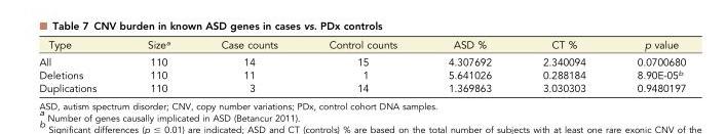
<table><thead><tr><td>Type</td><td>Size<sup>a</sup></td><td>Case counts</td><td>Control counts</td><td>ASD %</td><td>CT %</td><td>p value</td></tr></thead><tbody><tr><td>All</td><td>110</td><td>14</td><td>15</td><td>4.307692</td><td>2.340094</td><td>0.0700680</td></tr><tr><td>Deletions</td><td>110</td><td>11</td><td>1</td><td>5.641026</td><td>0.288184</td><td>8.90E-05<sup>b</sup></td></tr><tr><td>Duplications</td><td>110</td><td>3</td><td>14</td><td>1.369863</td><td>3.030303</td><td>0.9480197</td></tr></tbody></table>